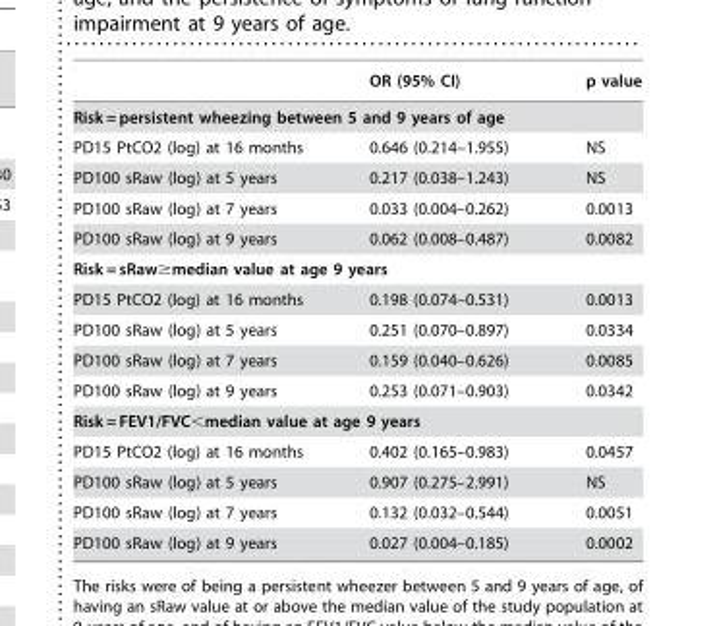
<table><thead><tr><td></td><td>OR (95% CI)</td><td>p value</td></tr></thead><tbody><tr><td colspan="3">Risk = persistent wheezing between 5 and 9 years of age</td></tr><tr><td>PD15 PtCO2 (log) at 16 months</td><td>0.646 (0.214–1.955)</td><td>NS</td></tr><tr><td>PD100 sRaw (log) at 5 years</td><td>0.217 (0.038–1.243)</td><td>NS</td></tr><tr><td>PD100 sRaw (log) at 7 years</td><td>0.033 (0.004–0.262)</td><td>0.0013</td></tr><tr><td>PD100 sRaw (log) at 9 years</td><td>0.062 (0.008–0.487)</td><td>0.0082</td></tr><tr><td colspan="3">Risk = sRaw≥median value at age 9 years</td></tr><tr><td>PD15 PtCO2 (log) at 16 months</td><td>0.198 (0.074–0.531)</td><td>0.0013</td></tr><tr><td>PD100 sRaw (log) at 5 years</td><td>0.251 (0.070–0.897)</td><td>0.0334</td></tr><tr><td>PD100 sRaw (log) at 7 years</td><td>0.159 (0.040–0.626)</td><td>0.0085</td></tr><tr><td>PD100 sRaw (log) at 9 years</td><td>0.253 (0.071–0.903)</td><td>0.0342</td></tr><tr><td colspan="3">Risk = FEV1/FVC&lt;median value at age 9 years</td></tr><tr><td>PD15 PtCO2 (log) at 16 months</td><td>0.402 (0.165–0.983)</td><td>0.0457</td></tr><tr><td>PD100 sRaw (log) at 5 years</td><td>0.907 (0.275–2.991)</td><td>NS</td></tr><tr><td>PD100 sRaw (log) at 7 years</td><td>0.132 (0.032–0.544)</td><td>0.0051</td></tr><tr><td>PD100 sRaw (log) at 9 years</td><td>0.027 (0.004–0.185)</td><td>0.0002</td></tr></tbody></table>